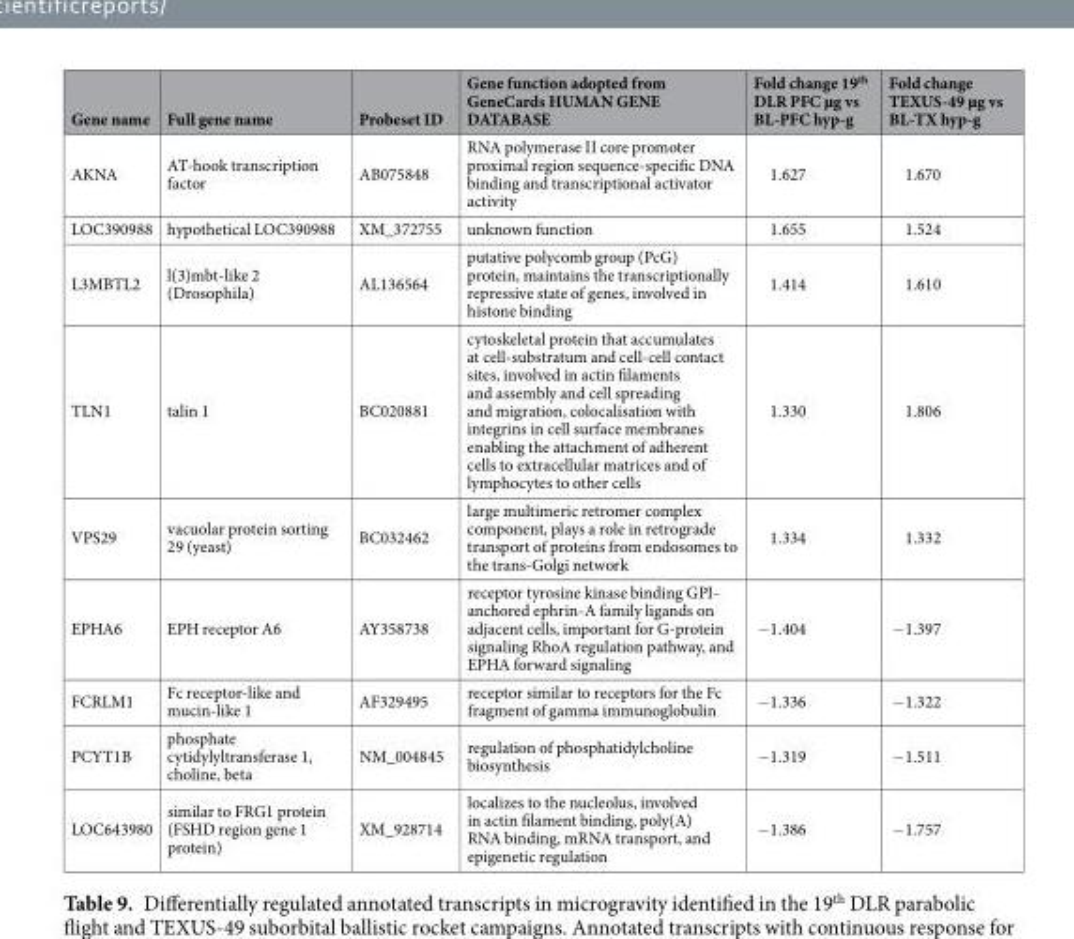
<table><thead><tr><td>Gene name</td><td>Full gene name</td><td>Probeset ID</td><td>Gene function adopted from GeneCards HUMAN GENE DATABASE</td><td>Fold change 19<sup>th</sup> DLR PFC µg vs BL-PFC hyp-g</td><td>Fold change TEXUS-49 µg vs BL-TX hyp-g</td></tr></thead><tbody><tr><td>AKNA</td><td>AT-hook transcription factor</td><td>AB075848</td><td>RNA polymerase II core promoter proximal region sequence-specific DNA binding and transcriptional activator activity</td><td>1.627</td><td>1.670</td></tr><tr><td>LOC390988</td><td>hypothetical LOC390988</td><td>XM_372755</td><td>unknown function</td><td>1.655</td><td>1.524</td></tr><tr><td>L3MBTL2</td><td>l(3)mbt-like 2 (Drosophila)</td><td>AL136564</td><td>putative polycomb group (PcG) protein, maintains the transcriptionally repressive state of genes, involved in histone binding</td><td>1.414</td><td>1.610</td></tr><tr><td>TLN1</td><td>talin 1</td><td>BC020881</td><td>cytoskeletal protein that accumulates at cell-substratum and cell-cell contact sites, involved in actin filaments and assembly and cell spreading and migration, colocalisation with integrins in cell surface membranes enabling the attachment of adherent cells to extracellular matrices and of lymphocytes to other cells</td><td>1.330</td><td>1.806</td></tr><tr><td>VPS29</td><td>vacuolar protein sorting 29 (yeast)</td><td>BC032462</td><td>large multimeric retromer complex component, plays a role in retrograde transport of proteins from endosomes to the trans-Golgi network</td><td>1.334</td><td>1.332</td></tr><tr><td>EPHA6</td><td>EPH receptor A6</td><td>AY358738</td><td>receptor tyrosine kinase binding GPI- anchored ephrin-A family ligands on adjacent cells, important for G-protein signaling RhoA regulation pathway, and EPHA forward signaling</td><td>−1.404</td><td>−1.397</td></tr><tr><td>FCRLM1</td><td>Fc receptor-like and mucin-like 1</td><td>AF329495</td><td>receptor similar to receptors for the Fc fragment of gamma immunoglobulin</td><td>−1.336</td><td>−1.322</td></tr><tr><td>PCYT1B</td><td>phosphate cytidylyltransferase 1, choline, beta</td><td>NM_004845</td><td>regulation of phosphatidylcholine biosynthesis</td><td>−1.319</td><td>−1.511</td></tr><tr><td>LOC643980</td><td>similar to FRG1 protein (FSHD region gene 1 protein)</td><td>XM_928714</td><td>localizes to the nucleolus, involved in actin filament binding, poly(A) RNA binding, mRNA transport, and epigenetic regulation</td><td>−1.386</td><td>−1.757</td></tr></tbody></table>